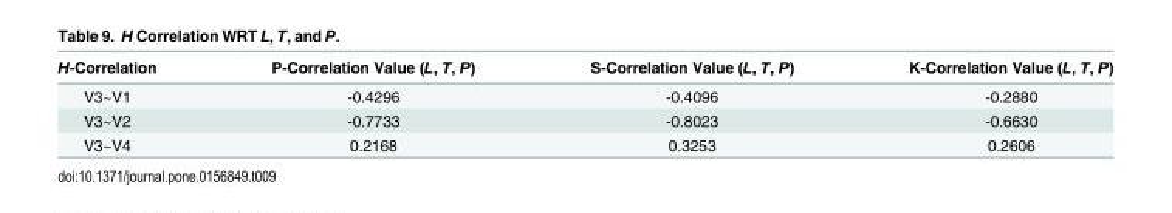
<table><thead><tr><td>H-Correlation</td><td>P-Correlation Value (L, T, P)</td><td>S-Correlation Value (L, T, P)</td><td>K-Correlation Value (L, T, P)</td></tr></thead><tbody><tr><td>V3~V1</td><td>-0.4296</td><td>-0.4096</td><td>-0.2880</td></tr><tr><td>V3~V2</td><td>-0.7733</td><td>-0.8023</td><td>-0.6630</td></tr><tr><td>V3~V4</td><td>0.2168</td><td>0.3253</td><td>0.2606</td></tr></tbody></table>